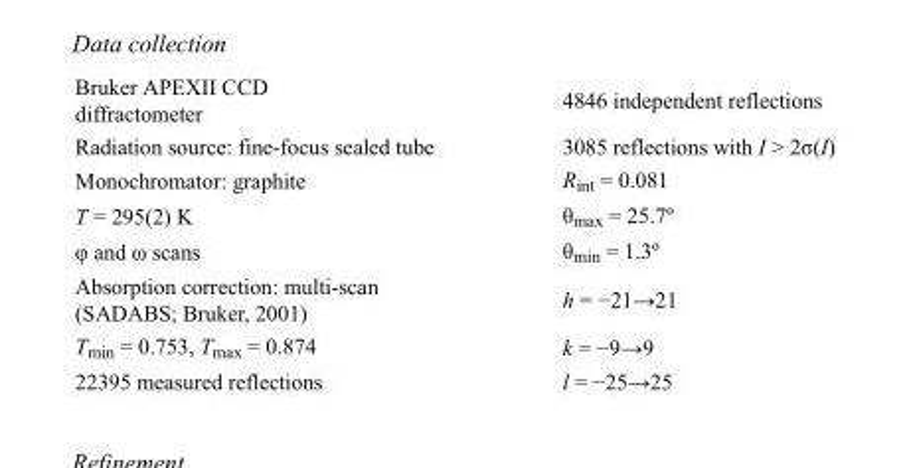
<table><tbody><tr><td>Bruker APEXII CCD diffractometer</td><td>4846 independent reflections</td></tr><tr><td>Radiation source: fine-focus sealed tube</td><td>3085 reflections with I &gt; 2σ(I)</td></tr><tr><td>Monochromator: graphite</td><td>R<sub>int</sub> = 0.081</td></tr><tr><td>T = 295(2) K</td><td>θ<sub>max</sub> = 25.7º</td></tr><tr><td>φ and ω scans</td><td>θ<sub>min</sub> = 1.3º</td></tr><tr><td>Absorption correction: multi-scan (SADABS; Bruker, 2001)</td><td>h = −21→21</td></tr><tr><td>T<sub>min</sub> = 0.753, T<sub>max</sub> = 0.874</td><td>k = −9→9</td></tr><tr><td>22395 measured reflections</td><td>l = −25→25</td></tr></tbody></table>